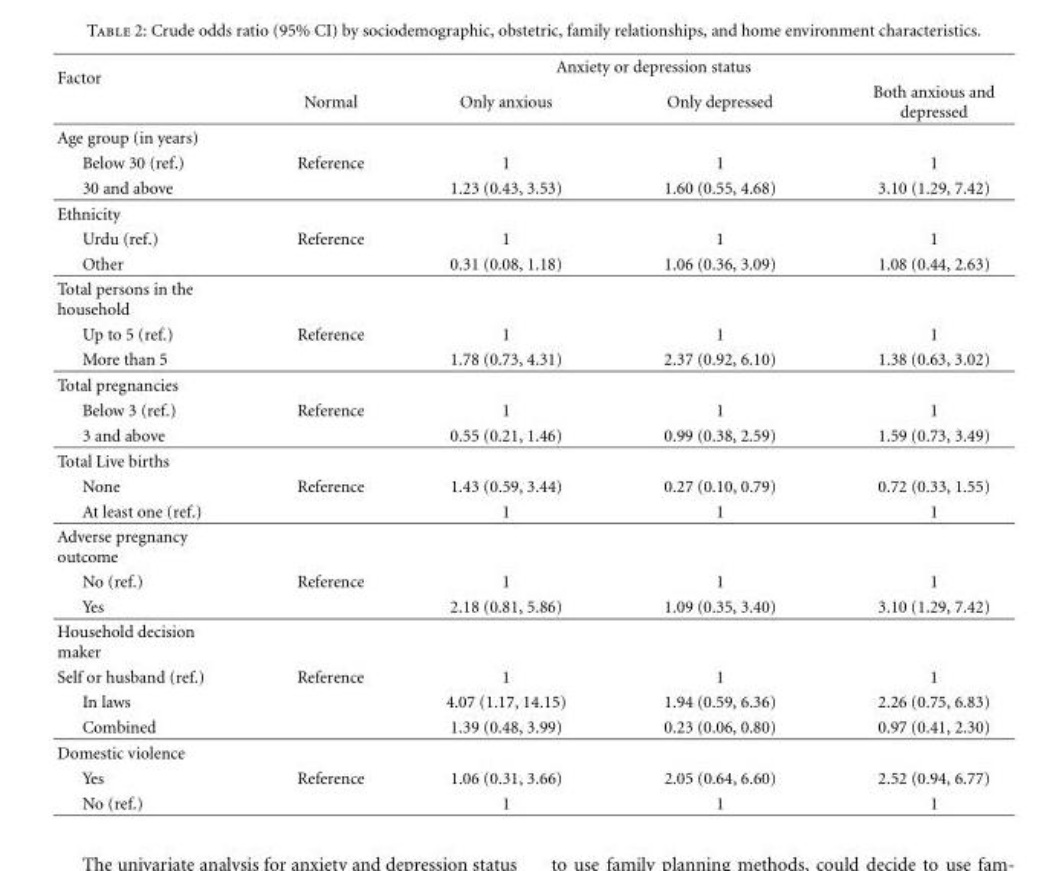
<table><thead><tr><td rowspan="2">Factor</td><td colspan="4">Anxiety or depression status</td></tr><tr><td>Normal</td><td>Only anxious</td><td>Only depressed</td><td>Both anxious and depressed</td></tr></thead><tbody><tr><td colspan="5">Age group (in years)</td></tr><tr><td>Below 30 (ref.)</td><td>Reference</td><td>1</td><td>1</td><td>1</td></tr><tr><td>30 and above</td><td></td><td>1.23 (0.43, 3.53)</td><td>1.60 (0.55, 4.68)</td><td>3.10 (1.29, 7.42)</td></tr><tr><td colspan="5">Ethnicity</td></tr><tr><td>Urdu (ref.)</td><td>Reference</td><td>1</td><td>1</td><td>1</td></tr><tr><td>Other</td><td></td><td>0.31 (0.08, 1.18)</td><td>1.06 (0.36, 3.09)</td><td>1.08 (0.44, 2.63)</td></tr><tr><td colspan="5">Total persons in the household</td></tr><tr><td>Up to 5 (ref.)</td><td>Reference</td><td>1</td><td>1</td><td>1</td></tr><tr><td>More than 5</td><td></td><td>1.78 (0.73, 4.31)</td><td>2.37 (0.92, 6.10)</td><td>1.38 (0.63, 3.02)</td></tr><tr><td colspan="5">Total pregnancies</td></tr><tr><td>Below 3 (ref.)</td><td>Reference</td><td>1</td><td>1</td><td>1</td></tr><tr><td>3 and above</td><td></td><td>0.55 (0.21, 1.46)</td><td>0.99 (0.38, 2.59)</td><td>1.59 (0.73, 3.49)</td></tr><tr><td colspan="5">Total Live births</td></tr><tr><td>None</td><td>Reference</td><td>1.43 (0.59, 3.44)</td><td>0.27 (0.10, 0.79)</td><td>0.72 (0.33, 1.55)</td></tr><tr><td>At least one (ref.)</td><td></td><td>1</td><td>1</td><td>1</td></tr><tr><td colspan="5">Adverse pregnancy outcome</td></tr><tr><td>No (ref.)</td><td>Reference</td><td>1</td><td>1</td><td>1</td></tr><tr><td>Yes</td><td></td><td>2.18 (0.81, 5.86)</td><td>1.09 (0.35, 3.40)</td><td>3.10 (1.29, 7.42)</td></tr><tr><td colspan="5">Household decision maker</td></tr><tr><td>Self or husband (ref.)</td><td>Reference</td><td>1</td><td>1</td><td>1</td></tr><tr><td>In laws</td><td></td><td>4.07 (1.17, 14.15)</td><td>1.94 (0.59, 6.36)</td><td>2.26 (0.75, 6.83)</td></tr><tr><td>Combined</td><td></td><td>1.39 (0.48, 3.99)</td><td>0.23 (0.06, 0.80)</td><td>0.97 (0.41, 2.30)</td></tr><tr><td colspan="5">Domestic violence</td></tr><tr><td>Yes</td><td>Reference</td><td>1.06 (0.31, 3.66)</td><td>2.05 (0.64, 6.60)</td><td>2.52 (0.94, 6.77)</td></tr><tr><td>No (ref.)</td><td></td><td>1</td><td>1</td><td>1</td></tr></tbody></table>